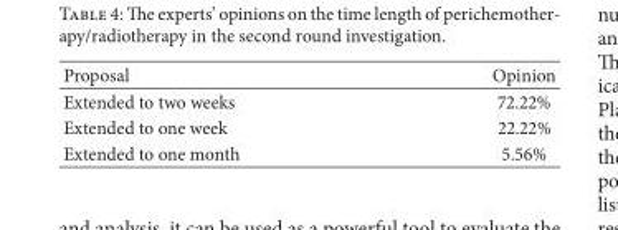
<table><thead><tr><td>Proposal</td><td>Opinion</td></tr></thead><tbody><tr><td>Extended to two weeks</td><td>72.22%</td></tr><tr><td>Extended to one week</td><td>22.22%</td></tr><tr><td>Extended to one month</td><td>5.56%</td></tr></tbody></table>